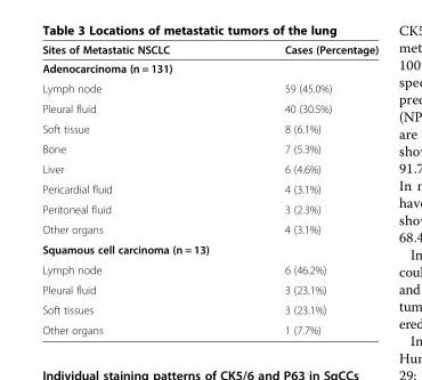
<table><thead><tr><td>Sites of Metastatic NSCLC</td><td>Cases (Percentage)</td></tr></thead><tbody><tr><td colspan="2">Adenocarcinoma (n = 131)</td></tr><tr><td>Lymph node</td><td>59 (45.0%)</td></tr><tr><td>Pleural fluid</td><td>40 (30.5%)</td></tr><tr><td>Soft tissue</td><td>8 (6.1%)</td></tr><tr><td>Bone</td><td>7 (5.3%)</td></tr><tr><td>Liver</td><td>6 (4.6%)</td></tr><tr><td>Pericardial fluid</td><td>4 (3.1%)</td></tr><tr><td>Peritoneal fluid</td><td>3 (2.3%)</td></tr><tr><td>Other organs</td><td>4 (3.1%)</td></tr><tr><td colspan="2">Squamous cell carcinoma (n = 13)</td></tr><tr><td>Lymph node</td><td>6 (46.2%)</td></tr><tr><td>Pleural fluid</td><td>3 (23.1%)</td></tr><tr><td>Soft tissues</td><td>3 (23.1%)</td></tr><tr><td>Other organs</td><td>1 (7.7%)</td></tr></tbody></table>